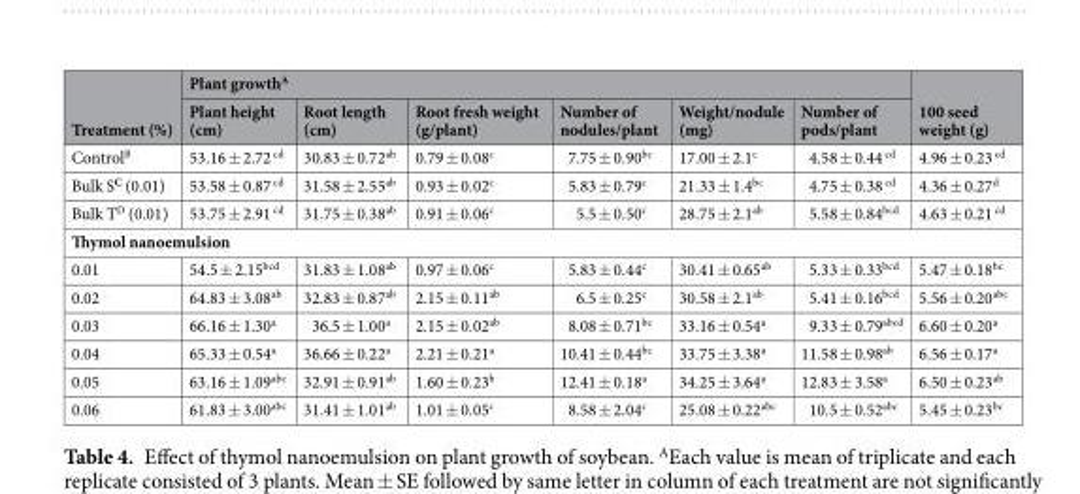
<table><thead><tr><td rowspan="2">Treatment (%)</td><td colspan="6">Plant growth<sup>A</sup></td><td rowspan="2">100 seed weight (g)</td></tr><tr><td>Plant height (cm)</td><td>Root length (cm)</td><td>Root fresh weight (g/plant)</td><td>Number of nodules/plant</td><td>Weight/nodule (mg)</td><td>Number of pods/plant</td></tr></thead><tbody><tr><td>Control<sup>B</sup></td><td>53.16 ± 2.72 <sup>cd</sup></td><td>30.83 ± 0.72<sup>ab</sup></td><td>0.79 ± 0.08<sup>c</sup></td><td>7.75 ± 0.90<sup>bc</sup></td><td>17.00 ± 2.1<sup>c</sup></td><td>4.58 ± 0.44 <sup>cd</sup></td><td>4.96 ± 0.23 <sup>cd</sup></td></tr><tr><td>Bulk S<sup>C</sup> (0.01)</td><td>53.58 ± 0.87 <sup>cd</sup></td><td>31.58 ± 2.55<sup>ab</sup></td><td>0.93 ± 0.02<sup>c</sup></td><td>5.83 ± 0.79<sup>c</sup></td><td>21.33 ± 1.4<sup>bc</sup></td><td>4.75 ± 0.38 <sup>cd</sup></td><td>4.36 ± 0.27<sup>d</sup></td></tr><tr><td>Bulk T<sup>D</sup> (0.01)</td><td>53.75 ± 2.91 <sup>cd</sup></td><td>31.75 ± 0.38<sup>ab</sup></td><td>0.91 ± 0.06<sup>c</sup></td><td>5.5 ± 0.50<sup>c</sup></td><td>28.75 ± 2.1<sup>ab</sup></td><td>5.58 ± 0.84<sup>bcd</sup></td><td>4.63 ± 0.21 <sup>cd</sup></td></tr><tr><td colspan="8">Thymol nanoemulsion</td></tr><tr><td>0.01</td><td>54.5 ± 2.15<sup>bcd</sup></td><td>31.83 ± 1.08<sup>ab</sup></td><td>0.97 ± 0.06<sup>c</sup></td><td>5.83 ± 0.44<sup>c</sup></td><td>30.41 ± 0.65<sup>ab</sup></td><td>5.33 ± 0.33<sup>bcd</sup></td><td>5.47 ± 0.18<sup>bc</sup></td></tr><tr><td>0.02</td><td>64.83 ± 3.08<sup>ab</sup></td><td>32.83 ± 0.87<sup>ab</sup></td><td>2.15 ± 0.11<sup>ab</sup></td><td>6.5 ± 0.25<sup>c</sup></td><td>30.58 ± 2.1<sup>ab</sup></td><td>5.41 ± 0.16<sup>bcd</sup></td><td>5.56 ± 0.20<sup>abc</sup></td></tr><tr><td>0.03</td><td>66.16 ± 1.30<sup>a</sup></td><td>36.5 ± 1.00<sup>a</sup></td><td>2.15 ± 0.02<sup>ab</sup></td><td>8.08 ± 0.71<sup>bc</sup></td><td>33.16 ± 0.54<sup>a</sup></td><td>9.33 ± 0.79<sup>abcd</sup></td><td>6.60 ± 0.20<sup>a</sup></td></tr><tr><td>0.04</td><td>65.33 ± 0.54<sup>a</sup></td><td>36.66 ± 0.22<sup>a</sup></td><td>2.21 ± 0.21<sup>a</sup></td><td>10.41 ± 0.44<sup>bc</sup></td><td>33.75 ± 3.38<sup>a</sup></td><td>11.58 ± 0.98<sup>ab</sup></td><td>6.56 ± 0.17<sup>a</sup></td></tr><tr><td>0.05</td><td>63.16 ± 1.09<sup>abc</sup></td><td>32.91 ± 0.91<sup>ab</sup></td><td>1.60 ± 0.23<sup>b</sup></td><td>12.41 ± 0.18<sup>a</sup></td><td>34.25 ± 3.64<sup>a</sup></td><td>12.83 ± 3.58<sup>a</sup></td><td>6.50 ± 0.23<sup>ab</sup></td></tr><tr><td>0.06</td><td>61.83 ± 3.00<sup>abc</sup></td><td>31.41 ± 1.01<sup>ab</sup></td><td>1.01 ± 0.05<sup>c</sup></td><td>8.58 ± 2.04<sup>c</sup></td><td>25.08 ± 0.22<sup>abc</sup></td><td>10.5 ± 0.52<sup>abc</sup></td><td>5.45 ± 0.23<sup>bc</sup></td></tr></tbody></table>